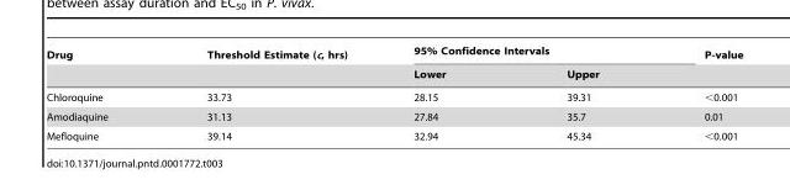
<table><thead><tr><td rowspan="2">Drug</td><td rowspan="2">Threshold Estimate (c, hrs)</td><td colspan="2">95% Confidence Intervals</td><td rowspan="2">P-value</td></tr><tr><td>Lower</td><td>Upper</td></tr></thead><tbody><tr><td>Chloroquine</td><td>33.73</td><td>28.15</td><td>39.31</td><td>&lt;0.001</td></tr><tr><td>Amodiaquine</td><td>31.13</td><td>27.84</td><td>35.7</td><td>0.01</td></tr><tr><td>Mefloquine</td><td>39.14</td><td>32.94</td><td>45.34</td><td>&lt;0.001</td></tr></tbody></table>